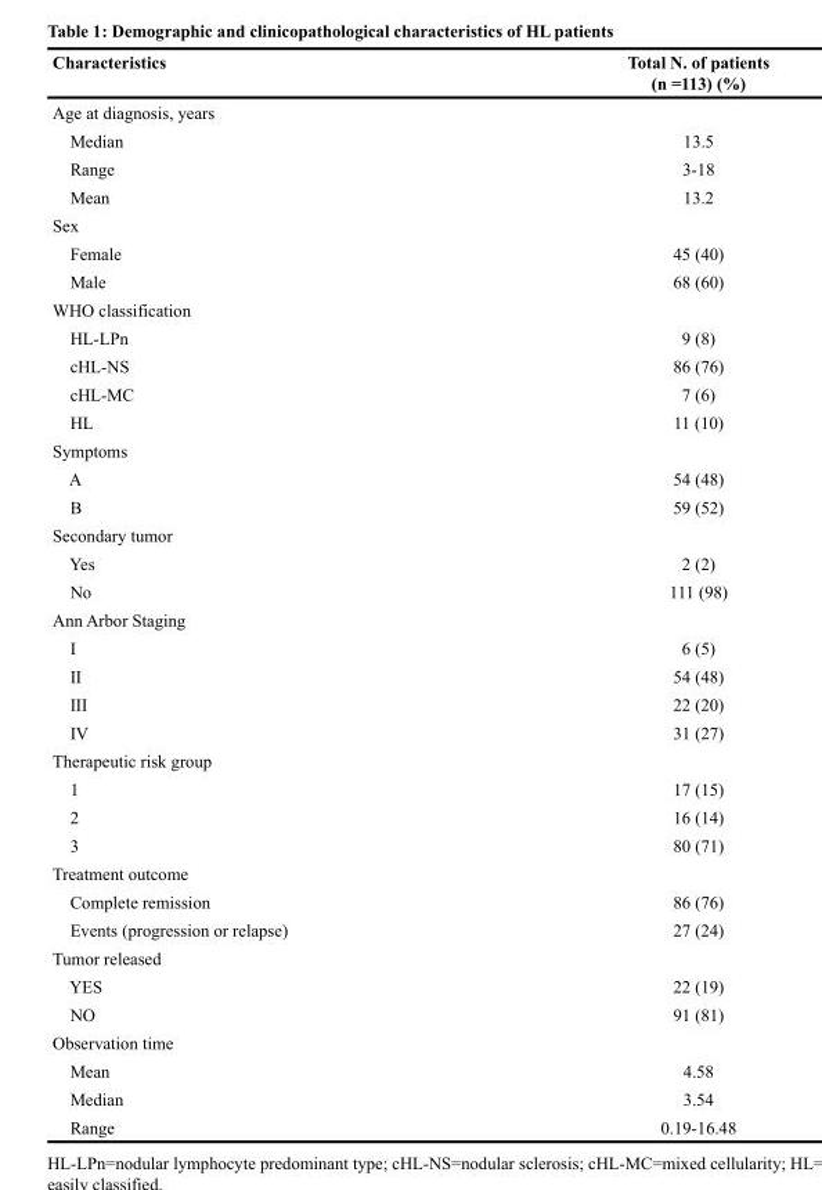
<table><thead><tr><td>Characteristics</td><td>Total N. of patients (n =113) (%)</td></tr></thead><tbody><tr><td colspan="2">Age at diagnosis, years</td></tr><tr><td>Median</td><td>13.5</td></tr><tr><td>Range</td><td>3-18</td></tr><tr><td>Mean</td><td>13.2</td></tr><tr><td colspan="2">Sex</td></tr><tr><td>Female</td><td>45 (40)</td></tr><tr><td>Male</td><td>68 (60)</td></tr><tr><td colspan="2">WHO classification</td></tr><tr><td>HL-LPn</td><td>9 (8)</td></tr><tr><td>cHL-NS</td><td>86 (76)</td></tr><tr><td>cHL-MC</td><td>7 (6)</td></tr><tr><td>HL</td><td>11 (10)</td></tr><tr><td colspan="2">Symptoms</td></tr><tr><td>A</td><td>54 (48)</td></tr><tr><td>B</td><td>59 (52)</td></tr><tr><td colspan="2">Secondary tumor</td></tr><tr><td>Yes</td><td>2 (2)</td></tr><tr><td>No</td><td>111 (98)</td></tr><tr><td colspan="2">Ann Arbor Staging</td></tr><tr><td>I</td><td>6 (5)</td></tr><tr><td>II</td><td>54 (48)</td></tr><tr><td>III</td><td>22 (20)</td></tr><tr><td>IV</td><td>31 (27)</td></tr><tr><td colspan="2">Therapeutic risk group</td></tr><tr><td>1</td><td>17 (15)</td></tr><tr><td>2</td><td>16 (14)</td></tr><tr><td>3</td><td>80 (71)</td></tr><tr><td colspan="2">Treatment outcome</td></tr><tr><td>Complete remission</td><td>86 (76)</td></tr><tr><td>Events (progression or relapse)</td><td>27 (24)</td></tr><tr><td colspan="2">Tumor released</td></tr><tr><td>YES</td><td>22 (19)</td></tr><tr><td>NO</td><td>91 (81)</td></tr><tr><td colspan="2">Observation time</td></tr><tr><td>Mean</td><td>4.58</td></tr><tr><td>Median</td><td>3.54</td></tr><tr><td>Range</td><td>0.19-16.48</td></tr></tbody></table>